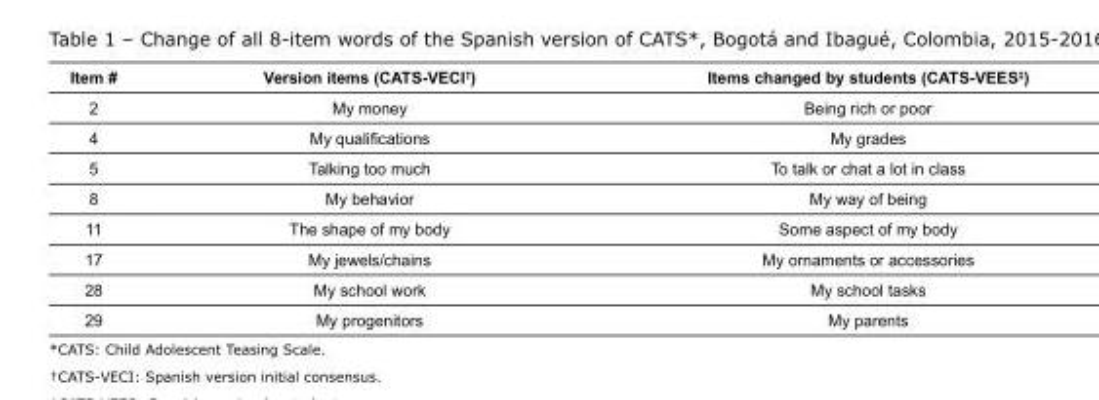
<table><tbody><tr><td>Item #</td><td>Version items (CATS-VECI<sup>†</sup>)</td><td>Items changed by students (CATS-VEES<sup>‡</sup>)</td></tr><tr><td>2</td><td>My money</td><td>Being rich or poor</td></tr><tr><td>4</td><td>My qualifications</td><td>My grades</td></tr><tr><td>5</td><td>Talking too much</td><td>To talk or chat a lot in class</td></tr><tr><td>8</td><td>My behavior</td><td>My way of being</td></tr><tr><td>11</td><td>The shape of my body</td><td>Some aspect of my body</td></tr><tr><td>17</td><td>My jewels/chains</td><td>My ornaments or accessories</td></tr><tr><td>28</td><td>My school work</td><td>My school tasks</td></tr><tr><td>29</td><td>My progenitors</td><td>My parents</td></tr></tbody></table>